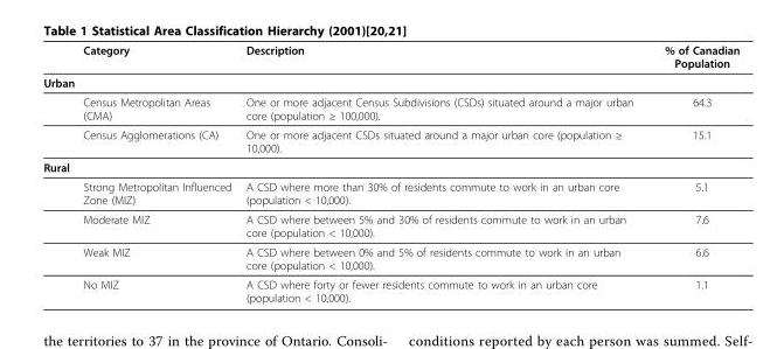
<table><thead><tr><td></td><td>Category</td><td>Description</td><td>% of Canadian Population</td></tr></thead><tbody><tr><td colspan="4">Urban</td></tr><tr><td></td><td>Census Metropolitan Areas (CMA)</td><td>One or more adjacent Census Subdivisions (CSDs) situated around a major urban core (population ≥ 100,000).</td><td>64.3</td></tr><tr><td></td><td>Census Agglomerations (CA)</td><td>One or more adjacent CSDs situated around a major urban core (population ≥ 10,000).</td><td>15.1</td></tr><tr><td colspan="4">Rural</td></tr><tr><td></td><td>Strong Metropolitan Influenced Zone (MIZ)</td><td>A CSD where more than 30% of residents commute to work in an urban core (population &lt; 10,000).</td><td>5.1</td></tr><tr><td></td><td>Moderate MIZ</td><td>A CSD where between 5% and 30% of residents commute to work in an urban core (population &lt; 10,000).</td><td>7.6</td></tr><tr><td></td><td>Weak MIZ</td><td>A CSD where between 0% and 5% of residents commute to work in an urban core (population &lt; 10,000).</td><td>6.6</td></tr><tr><td></td><td>No MIZ</td><td>A CSD where forty or fewer residents commute to work in an urban core (population &lt; 10,000).</td><td>1.1</td></tr></tbody></table>